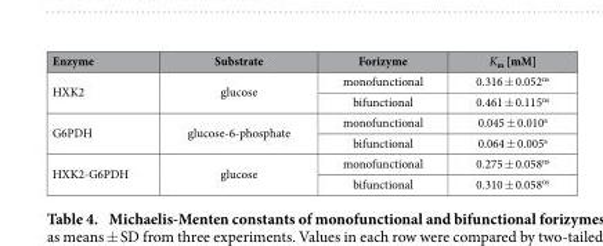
<table><thead><tr><td>Enzyme</td><td>Substrate</td><td>Forizyme</td><td>K<sub>m</sub> [mM]</td></tr></thead><tbody><tr><td rowspan="2">HXK2</td><td rowspan="2">glucose</td><td>monofunctional</td><td>0.316 ± 0.052<sup>ns</sup></td></tr><tr><td>bifunctional</td><td>0.461 ± 0.115<sup>ns</sup></td></tr><tr><td rowspan="2">G6PDH</td><td rowspan="2">glucose-6-phosphate</td><td>monofunctional</td><td>0.045 ± 0.010<sup>a</sup></td></tr><tr><td>bifunctional</td><td>0.064 ± 0.005<sup>a</sup></td></tr><tr><td rowspan="2">HXK2-G6PDH</td><td rowspan="2">glucose</td><td>monofunctional</td><td>0.275 ± 0.058<sup>ns</sup></td></tr><tr><td>bifunctional</td><td>0.310 ± 0.058<sup>ns</sup></td></tr></tbody></table>